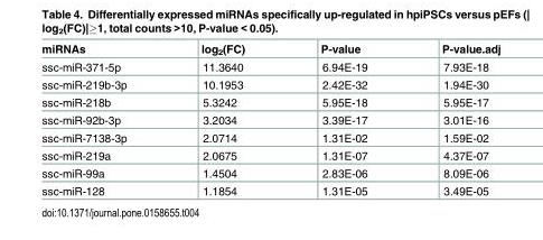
<table><thead><tr><td>miRNAs</td><td>log<sub>2</sub>(FC)</td><td>P-value</td><td>P-value.adj</td></tr></thead><tbody><tr><td>ssc-miR-371-5p</td><td>11.3640</td><td>6.94E-19</td><td>7.93E-18</td></tr><tr><td>ssc-miR-219b-3p</td><td>10.1953</td><td>2.42E-32</td><td>1.94E-30</td></tr><tr><td>ssc-miR-218b</td><td>5.3242</td><td>5.95E-18</td><td>5.95E-17</td></tr><tr><td>ssc-miR-92b-3p</td><td>3.2034</td><td>3.39E-17</td><td>3.01E-16</td></tr><tr><td>ssc-miR-7138-3p</td><td>2.0714</td><td>1.31E-02</td><td>1.59E-02</td></tr><tr><td>ssc-miR-219a</td><td>2.0675</td><td>1.31E-07</td><td>4.37E-07</td></tr><tr><td>ssc-miR-99a</td><td>1.4504</td><td>2.83E-06</td><td>8.09E-06</td></tr><tr><td>ssc-miR-128</td><td>1.1854</td><td>1.31E-05</td><td>3.49E-05</td></tr></tbody></table>